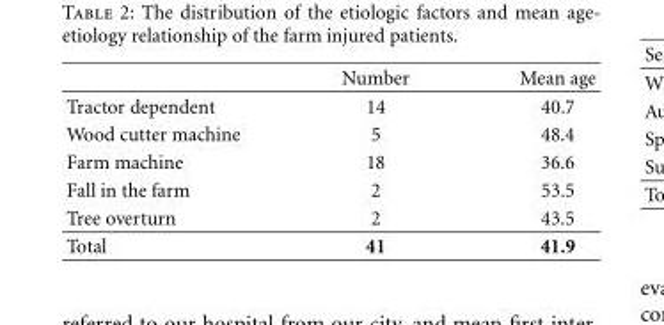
<table><thead><tr><td></td><td>Number</td><td>Mean age</td></tr></thead><tbody><tr><td>Tractor dependent</td><td>14</td><td>40.7</td></tr><tr><td>Wood cutter machine</td><td>5</td><td>48.4</td></tr><tr><td>Farm machine</td><td>18</td><td>36.6</td></tr><tr><td>Fall in the farm</td><td>2</td><td>53.5</td></tr><tr><td>Tree overturn</td><td>2</td><td>43.5</td></tr><tr><td>Total</td><td>41</td><td>41.9</td></tr></tbody></table>